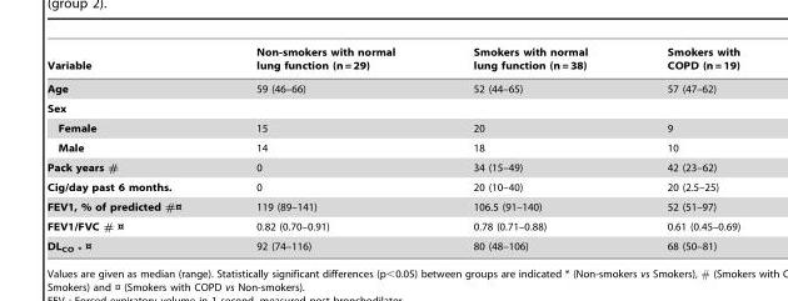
<table><thead><tr><td>Variable</td><td>Non-smokers with normal lung function (n = 29)</td><td>Smokers with normal lung function (n = 38)</td><td>Smokers with COPD (n = 19)</td></tr></thead><tbody><tr><td>Age</td><td>59 (46–66)</td><td>52 (44–65)</td><td>57 (47–62)</td></tr><tr><td colspan="4">Sex</td></tr><tr><td>Female</td><td>15</td><td>20</td><td>9</td></tr><tr><td>Male</td><td>14</td><td>18</td><td>10</td></tr><tr><td>Pack years #</td><td>0</td><td>34 (15–49)</td><td>42 (23–62)</td></tr><tr><td>Cig/day past 6 months.</td><td>0</td><td>20 (10–40)</td><td>20 (2.5–25)</td></tr><tr><td>FEV1, % of predicted #¤</td><td>119 (89–141)</td><td>106.5 (91–140)</td><td>52 (51–97)</td></tr><tr><td>FEV1/FVC # ¤</td><td>0.82 (0.70–0.91)</td><td>0.78 (0.71–0.88)</td><td>0.61 (0.45–0.69)</td></tr><tr><td>DL<sub>CO *</sub> ¤</td><td>92 (74–116)</td><td>80 (48–106)</td><td>68 (50–81)</td></tr></tbody></table>